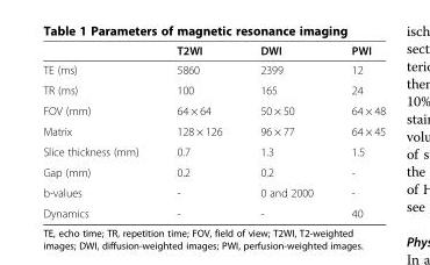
<table><thead><tr><td></td><td>T2WI</td><td>DWI</td><td>PWI</td></tr></thead><tbody><tr><td>TE (ms)</td><td>5860</td><td>2399</td><td>12</td></tr><tr><td>TR (ms)</td><td>100</td><td>165</td><td>24</td></tr><tr><td>FOV (mm)</td><td>64 × 64</td><td>50 × 50</td><td>64 × 48</td></tr><tr><td>Matrix</td><td>128 × 126</td><td>96 × 77</td><td>64 × 45</td></tr><tr><td>Slice thickness (mm)</td><td>0.7</td><td>1.3</td><td>1.5</td></tr><tr><td>Gap (mm)</td><td>0.2</td><td>0.2</td><td>-</td></tr><tr><td>b-values</td><td>-</td><td>0 and 2000</td><td>-</td></tr><tr><td>Dynamics</td><td>-</td><td>-</td><td>40</td></tr></tbody></table>